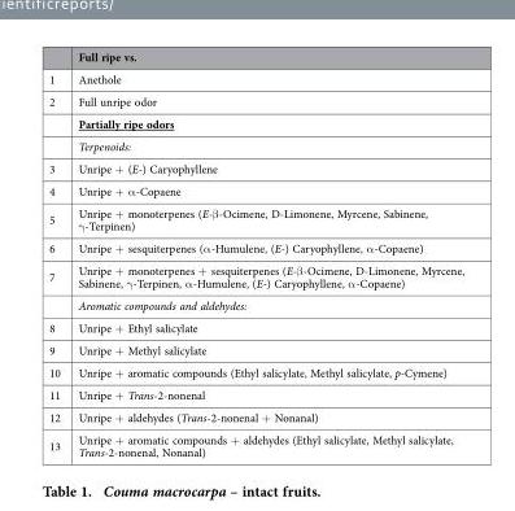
<table><thead><tr><td></td><td>Full ripe vs.</td></tr></thead><tbody><tr><td>1</td><td>Anethole</td></tr><tr><td rowspan="3">2</td><td>Full unripe odor</td></tr><tr><td>Partially ripe odors</td></tr><tr><td>Terpenoids:</td></tr><tr><td>3</td><td>Unripe + (E-) Caryophyllene</td></tr><tr><td>4</td><td>Unripe + α -Copaene</td></tr><tr><td>5</td><td>Unripe + monoterpenes (E-β -Ocimene, D-Limonene, Myrcene, Sabinene, γ -Terpinen)</td></tr><tr><td>6</td><td>Unripe + sesquiterpenes (α -Humulene, (E-) Caryophyllene, α -Copaene)</td></tr><tr><td rowspan="2">7</td><td>Unripe + monoterpenes + sesquiterpenes (E-β -Ocimene, D-Limonene, Myrcene, Sabinene, γ -Terpinen, α -Humulene, (E-) Caryophyllene, α -Copaene)</td></tr><tr><td>Aromatic compounds and aldehydes:</td></tr><tr><td>8</td><td>Unripe + Ethyl salicylate</td></tr><tr><td>9</td><td>Unripe + Methyl salicylate</td></tr><tr><td>10</td><td>Unripe + aromatic compounds (Ethyl salicylate, Methyl salicylate, p-Cymene)</td></tr><tr><td>11</td><td>Unripe + Trans-2-nonenal</td></tr><tr><td>12</td><td>Unripe + aldehydes (Trans-2-nonenal + Nonanal)</td></tr><tr><td>13</td><td>Unripe + aromatic compounds + aldehydes (Ethyl salicylate, Methyl salicylate, Trans-2-nonenal, Nonanal)</td></tr></tbody></table>